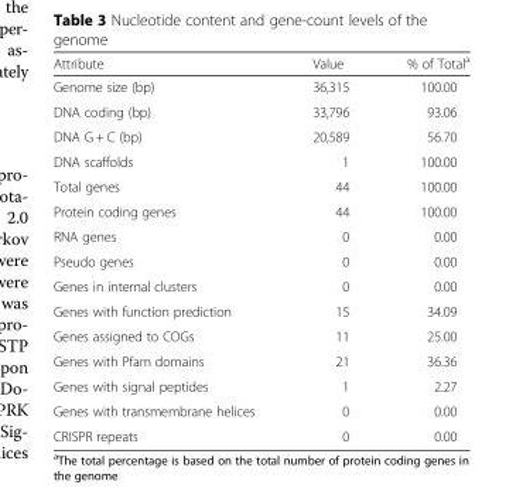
<table><thead><tr><td>Attribute</td><td>Value</td><td>% of Total<sup>a</sup></td></tr></thead><tbody><tr><td>Genome size (bp)</td><td>36,315</td><td>100.00</td></tr><tr><td>DNA coding (bp)</td><td>33,796</td><td>93.06</td></tr><tr><td>DNA G + C (bp)</td><td>20,589</td><td>56.70</td></tr><tr><td>DNA scaffolds</td><td>1</td><td>100.00</td></tr><tr><td>Total genes</td><td>44</td><td>100.00</td></tr><tr><td>Protein coding genes</td><td>44</td><td>100.00</td></tr><tr><td>RNA genes</td><td>0</td><td>0.00</td></tr><tr><td>Pseudo genes</td><td>0</td><td>0.00</td></tr><tr><td>Genes in internal clusters</td><td>0</td><td>0.00</td></tr><tr><td>Genes with function prediction</td><td>15</td><td>34.09</td></tr><tr><td>Genes assigned to COGs</td><td>11</td><td>25.00</td></tr><tr><td>Genes with Pfam domains</td><td>21</td><td>36.36</td></tr><tr><td>Genes with signal peptides</td><td>1</td><td>2.27</td></tr><tr><td>Genes with transmembrane helices</td><td>0</td><td>0.00</td></tr><tr><td>CRISPR repeats</td><td>0</td><td>0.00</td></tr></tbody></table>